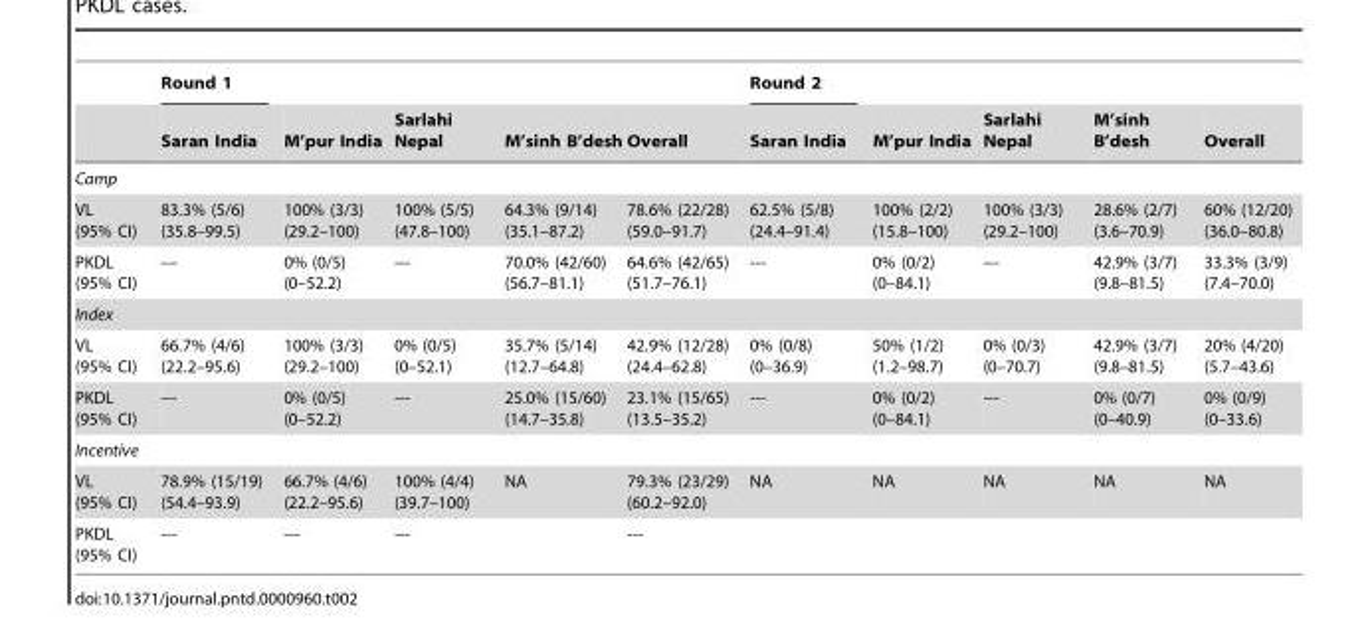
<table><thead><tr><td rowspan="2"></td><td rowspan="2">Round 1 Saran India</td><td rowspan="2">M’pur India</td><td rowspan="2">Sarlahi Nepal</td><td rowspan="2">M’sinh B’desh</td><td rowspan="2">Overall</td><td rowspan="2">Round 2 Saran India</td><td rowspan="2">M’pur India</td><td rowspan="2">Sarlahi Nepal</td><td rowspan="2">M’sinh B’desh</td><td rowspan="2">Overall</td></tr><tr></tr></thead><tbody><tr><td colspan="11">Camp</td></tr><tr><td>VL (95% CI)</td><td>83.3% (5/6) (35.8–99.5)</td><td>100% (3/3) (29.2–100)</td><td>100% (5/5) (47.8–100)</td><td>64.3% (9/14) (35.1–87.2)</td><td>78.6% (22/28) (59.0–91.7)</td><td>62.5% (5/8) (24.4–91.4)</td><td>100% (2/2) (15.8–100)</td><td>100% (3/3) (29.2–100)</td><td>28.6% (2/7) (3.6–70.9)</td><td>60% (12/20) (36.0–80.8)</td></tr><tr><td>PKDL (95% CI)</td><td>---</td><td>0% (0/5) (0–52.2)</td><td>---</td><td>70.0% (42/60) (56.7–81.1)</td><td>64.6% (42/65) (51.7–76.1)</td><td>---</td><td>0% (0/2) (0–84.1)</td><td>---</td><td>42.9% (3/7) (9.8–81.5)</td><td>33.3% (3/9) (7.4–70.0)</td></tr><tr><td colspan="11">Index</td></tr><tr><td>VL (95% CI)</td><td>66.7% (4/6) (22.2–95.6)</td><td>100% (3/3) (29.2–100)</td><td>0% (0/5) (0–52.1)</td><td>35.7% (5/14) (12.7–64.8)</td><td>42.9% (12/28) (24.4–62.8)</td><td>0% (0/8) (0–36.9)</td><td>50% (1/2) (1.2–98.7)</td><td>0% (0/3) (0–70.7)</td><td>42.9% (3/7) (9.8–81.5)</td><td>20% (4/20) (5.7–43.6)</td></tr><tr><td>PKDL (95% CI)</td><td>---</td><td>0% (0/5) (0–52.2)</td><td>---</td><td>25.0% (15/60) (14.7–35.8)</td><td>23.1% (15/65) (13.5–35.2)</td><td>---</td><td>0% (0/2) (0–84.1)</td><td>---</td><td>0% (0/7) (0–40.9)</td><td>0% (0/9) (0–33.6)</td></tr><tr><td colspan="11">Incentive</td></tr><tr><td>VL (95% CI)</td><td>78.9% (15/19) (54.4–93.9)</td><td>66.7% (4/6) (22.2–95.6)</td><td>100% (4/4) (39.7–100)</td><td>NA</td><td>79.3% (23/29) (60.2–92.0)</td><td>NA</td><td>NA</td><td>NA</td><td>NA</td><td>NA</td></tr><tr><td>PKDL (95% CI)</td><td>---</td><td>---</td><td>---</td><td></td><td>---</td><td></td><td></td><td></td><td></td><td></td></tr></tbody></table>